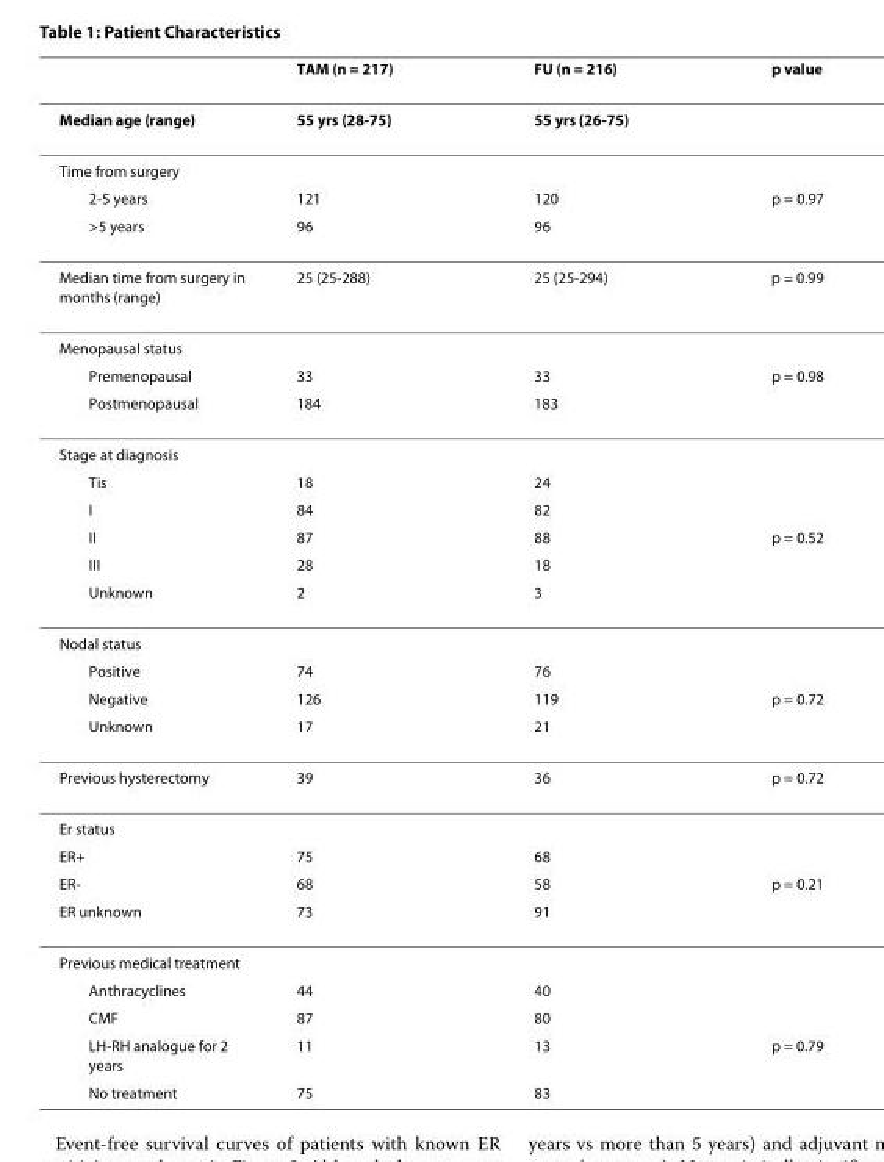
<table><thead><tr><td></td><td>TAM (n = 217)</td><td>FU (n = 216)</td><td>p value</td></tr></thead><tbody><tr><td>Median age (range)</td><td>55 yrs (28-75)</td><td>55 yrs (26-75)</td><td></td></tr><tr><td colspan="4">Time from surgery</td></tr><tr><td>2-5 years</td><td>121</td><td>120</td><td>p = 0.97</td></tr><tr><td>&gt;5 years</td><td>96</td><td>96</td><td></td></tr><tr><td>Median time from surgery in months (range)</td><td>25 (25-288)</td><td>25 (25-294)</td><td>p = 0.99</td></tr><tr><td colspan="4">Menopausal status</td></tr><tr><td>Premenopausal</td><td>33</td><td>33</td><td>p = 0.98</td></tr><tr><td>Postmenopausal</td><td>184</td><td>183</td><td></td></tr><tr><td colspan="4">Stage at diagnosis</td></tr><tr><td>Tis</td><td>18</td><td>24</td><td></td></tr><tr><td>I</td><td>84</td><td>82</td><td></td></tr><tr><td>II</td><td>87</td><td>88</td><td>p = 0.52</td></tr><tr><td>III</td><td>28</td><td>18</td><td></td></tr><tr><td>Unknown</td><td>2</td><td>3</td><td></td></tr><tr><td colspan="4">Nodal status</td></tr><tr><td>Positive</td><td>74</td><td>76</td><td></td></tr><tr><td>Negative</td><td>126</td><td>119</td><td>p = 0.72</td></tr><tr><td>Unknown</td><td>17</td><td>21</td><td></td></tr><tr><td>Previous hysterectomy</td><td>39</td><td>36</td><td>p = 0.72</td></tr><tr><td colspan="4">Er status</td></tr><tr><td>ER+</td><td>75</td><td>68</td><td></td></tr><tr><td>ER-</td><td>68</td><td>58</td><td>p = 0.21</td></tr><tr><td>ER unknown</td><td>73</td><td>91</td><td></td></tr><tr><td colspan="4">Previous medical treatment</td></tr><tr><td>Anthracyclines</td><td>44</td><td>40</td><td></td></tr><tr><td>CMF</td><td>87</td><td>80</td><td></td></tr><tr><td>LH-RH analogue for 2 years</td><td>11</td><td>13</td><td>p = 0.79</td></tr><tr><td>No treatment</td><td>75</td><td>83</td><td></td></tr></tbody></table>